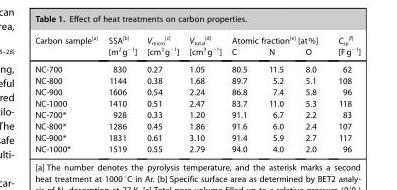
<table><thead><tr><td rowspan="2">Carbon sample<sup>[a]</sup></td><td rowspan="2">SSA<sup>[b]</sup> [m<sup>2</sup>g<sup>−1</sup>]</td><td rowspan="2">V<sub>micro</sub> <sup>[c]</sup> [cm<sup>3</sup>g<sup>−1</sup>]</td><td rowspan="2">V<sub>total</sub> <sup>[d]</sup> [cm<sup>3</sup>g<sup>−1</sup>]</td><td colspan="3">Atomic fraction<sup>[e]</sup> [at%]</td><td rowspan="2">C<sub>sp</sub> <sup>[f]</sup> [Fg<sup>−1</sup>]</td></tr><tr><td>C</td><td>N</td><td>O</td></tr></thead><tbody><tr><td>NC-700</td><td>830</td><td>0.27</td><td>1.05</td><td>80.5</td><td>11.5</td><td>8.0</td><td>62</td></tr><tr><td>NC-800</td><td>1144</td><td>0.38</td><td>1.68</td><td>89.7</td><td>5.2</td><td>5.1</td><td>108</td></tr><tr><td>NC-900</td><td>1606</td><td>0.54</td><td>2.24</td><td>86.8</td><td>7.4</td><td>5.8</td><td>96</td></tr><tr><td>NC-1000</td><td>1410</td><td>0.51</td><td>2.47</td><td>83.7</td><td>11.0</td><td>5.3</td><td>118</td></tr><tr><td>NC-700*</td><td>928</td><td>0.33</td><td>1.20</td><td>91.1</td><td>6.7</td><td>2.2</td><td>83</td></tr><tr><td>NC-800*</td><td>1286</td><td>0.45</td><td>1.86</td><td>91.6</td><td>6.0</td><td>2.4</td><td>107</td></tr><tr><td>NC-900*</td><td>1831</td><td>0.61</td><td>3.10</td><td>91.4</td><td>5.9</td><td>2.7</td><td>117</td></tr><tr><td>NC-1000*</td><td>1519</td><td>0.55</td><td>2.79</td><td>94.0</td><td>4.0</td><td>2.0</td><td>96</td></tr></tbody></table>